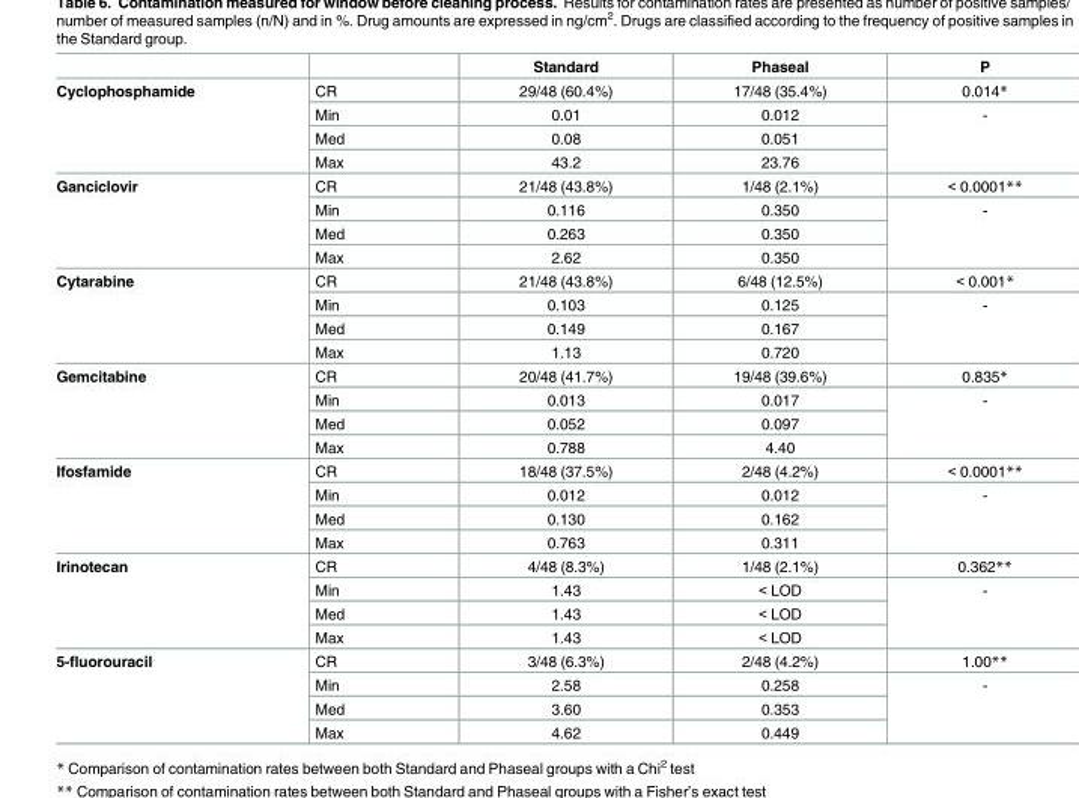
<table><thead><tr><td></td><td></td><td>Standard</td><td>Phaseal</td><td>P</td></tr></thead><tbody><tr><td rowspan="4">Cyclophosphamide</td><td>CR</td><td>29/48 (60.4%)</td><td>17/48 (35.4%)</td><td>0.014*</td></tr><tr><td>Min</td><td>0.01</td><td>0.012</td><td rowspan="3">-</td></tr><tr><td>Med</td><td>0.08</td><td>0.051</td></tr><tr><td>Max</td><td>43.2</td><td>23.76</td></tr><tr><td rowspan="4">Ganciclovir</td><td>CR</td><td>21/48 (43.8%)</td><td>1/48 (2.1%)</td><td>&lt; 0.0001**</td></tr><tr><td>Min</td><td>0.116</td><td>0.350</td><td rowspan="3">-</td></tr><tr><td>Med</td><td>0.263</td><td>0.350</td></tr><tr><td>Max</td><td>2.62</td><td>0.350</td></tr><tr><td rowspan="4">Cytarabine</td><td>CR</td><td>21/48 (43.8%)</td><td>6/48 (12.5%)</td><td>&lt; 0.001*</td></tr><tr><td>Min</td><td>0.103</td><td>0.125</td><td rowspan="3">-</td></tr><tr><td>Med</td><td>0.149</td><td>0.167</td></tr><tr><td>Max</td><td>1.13</td><td>0.720</td></tr><tr><td rowspan="4">Gemcitabine</td><td>CR</td><td>20/48 (41.7%)</td><td>19/48 (39.6%)</td><td>0.835*</td></tr><tr><td>Min</td><td>0.013</td><td>0.017</td><td rowspan="3">-</td></tr><tr><td>Med</td><td>0.052</td><td>0.097</td></tr><tr><td>Max</td><td>0.788</td><td>4.40</td></tr><tr><td rowspan="4">Ifosfamide</td><td>CR</td><td>18/48 (37.5%)</td><td>2/48 (4.2%)</td><td>&lt; 0.0001**</td></tr><tr><td>Min</td><td>0.012</td><td>0.012</td><td rowspan="3">-</td></tr><tr><td>Med</td><td>0.130</td><td>0.162</td></tr><tr><td>Max</td><td>0.763</td><td>0.311</td></tr><tr><td rowspan="4">Irinotecan</td><td>CR</td><td>4/48 (8.3%)</td><td>1/48 (2.1%)</td><td>0.362**</td></tr><tr><td>Min</td><td>1.43</td><td>&lt; LOD</td><td rowspan="3">-</td></tr><tr><td>Med</td><td>1.43</td><td>&lt; LOD</td></tr><tr><td>Max</td><td>1.43</td><td>&lt; LOD</td></tr><tr><td rowspan="4">5-fluorouracil</td><td>CR</td><td>3/48 (6.3%)</td><td>2/48 (4.2%)</td><td>1.00**</td></tr><tr><td>Min</td><td>2.58</td><td>0.258</td><td rowspan="3">-</td></tr><tr><td>Med</td><td>3.60</td><td>0.353</td></tr><tr><td>Max</td><td>4.62</td><td>0.449</td></tr></tbody></table>